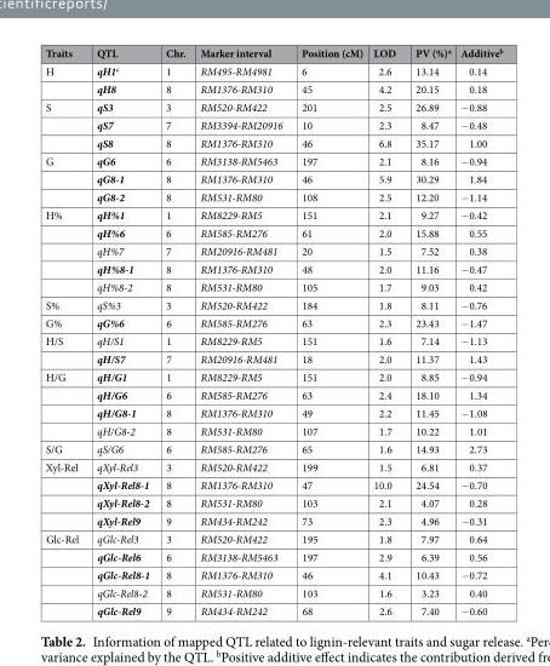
<table><thead><tr><td>Traits</td><td>QTL</td><td>Chr.</td><td>Marker interval</td><td>Position (cM)</td><td>LOD</td><td>PV (%)<sup>a</sup></td><td>Additive<sup>b</sup></td></tr></thead><tbody><tr><td rowspan="2">H</td><td>qH1<sup>c</sup></td><td>1</td><td>RM495-RM4981</td><td>6</td><td>2.6</td><td>13.14</td><td>0.14</td></tr><tr><td>qH8</td><td>8</td><td>RM1376-RM310</td><td>45</td><td>4.2</td><td>20.15</td><td>0.18</td></tr><tr><td rowspan="3">S</td><td>qS3</td><td>3</td><td>RM520-RM422</td><td>201</td><td>2.5</td><td>26.89</td><td>−0.88</td></tr><tr><td>qS7</td><td>7</td><td>RM3394-RM20916</td><td>10</td><td>2.3</td><td>8.47</td><td>−0.48</td></tr><tr><td>qS8</td><td>8</td><td>RM1376-RM310</td><td>46</td><td>6.8</td><td>35.17</td><td>1.00</td></tr><tr><td rowspan="3">G</td><td>qG6</td><td>6</td><td>RM3138-RM5463</td><td>197</td><td>2.1</td><td>8.16</td><td>−0.94</td></tr><tr><td>qG8-1</td><td>8</td><td>RM1376-RM310</td><td>46</td><td>5.9</td><td>30.29</td><td>1.84</td></tr><tr><td>qG8-2</td><td>8</td><td>RM531-RM80</td><td>108</td><td>2.5</td><td>12.20</td><td>−1.14</td></tr><tr><td rowspan="5">H%</td><td>qH%1</td><td>1</td><td>RM8229-RM5</td><td>151</td><td>2.1</td><td>9.27</td><td>−0.42</td></tr><tr><td>qH%6</td><td>6</td><td>RM585-RM276</td><td>61</td><td>2.0</td><td>15.88</td><td>0.55</td></tr><tr><td>qH%7</td><td>7</td><td>RM20916-RM481</td><td>20</td><td>1.5</td><td>7.52</td><td>0.38</td></tr><tr><td>qH%8-1</td><td>8</td><td>RM1376-RM310</td><td>48</td><td>2.0</td><td>11.16</td><td>−0.47</td></tr><tr><td>qH%8-2</td><td>8</td><td>RM531-RM80</td><td>105</td><td>1.7</td><td>9.03</td><td>0.42</td></tr><tr><td>S%</td><td>qS%3</td><td>3</td><td>RM520-RM422</td><td>184</td><td>1.8</td><td>8.11</td><td>−0.76</td></tr><tr><td>G%</td><td>qG%6</td><td>6</td><td>RM585-RM276</td><td>63</td><td>2.3</td><td>23.43</td><td>−1.47</td></tr><tr><td rowspan="2">H/S</td><td>qH/S1</td><td>1</td><td>RM8229-RM5</td><td>151</td><td>1.6</td><td>7.14</td><td>−1.13</td></tr><tr><td>qH/S7</td><td>7</td><td>RM20916-RM481</td><td>18</td><td>2.0</td><td>11.37</td><td>1.43</td></tr><tr><td rowspan="4">H/G</td><td>qH/G1</td><td>1</td><td>RM8229-RM5</td><td>151</td><td>2.0</td><td>8.85</td><td>−0.94</td></tr><tr><td>qH/G6</td><td>6</td><td>RM585-RM276</td><td>63</td><td>2.4</td><td>18.10</td><td>1.34</td></tr><tr><td>qH/G8-1</td><td>8</td><td>RM1376-RM310</td><td>49</td><td>2.2</td><td>11.45</td><td>−1.08</td></tr><tr><td>qH/G8-2</td><td>8</td><td>RM531-RM80</td><td>107</td><td>1.7</td><td>10.22</td><td>1.01</td></tr><tr><td>S/G</td><td>qS/G6</td><td>6</td><td>RM585-RM276</td><td>65</td><td>1.6</td><td>14.93</td><td>2.73</td></tr><tr><td rowspan="4">Xyl-Rel</td><td>qXyl-Rel3</td><td>3</td><td>RM520-RM422</td><td>199</td><td>1.5</td><td>6.81</td><td>0.37</td></tr><tr><td>qXyl-Rel8-1</td><td>8</td><td>RM1376-RM310</td><td>47</td><td>10.0</td><td>24.54</td><td>−0.70</td></tr><tr><td>qXyl-Rel8-2</td><td>8</td><td>RM531-RM80</td><td>103</td><td>2.1</td><td>4.07</td><td>0.28</td></tr><tr><td>qXyl-Rel9</td><td>9</td><td>RM434-RM242</td><td>73</td><td>2.3</td><td>4.96</td><td>−0.31</td></tr><tr><td rowspan="5">Glc-Rel</td><td>qGlc-Rel3</td><td>3</td><td>RM520-RM422</td><td>195</td><td>1.8</td><td>7.97</td><td>0.64</td></tr><tr><td>qGlc-Rel6</td><td>6</td><td>RM3138-RM5463</td><td>197</td><td>2.9</td><td>6.39</td><td>0.56</td></tr><tr><td>qGlc-Rel8-1</td><td>8</td><td>RM1376-RM310</td><td>46</td><td>4.1</td><td>10.43</td><td>−0.72</td></tr><tr><td>qGlc-Rel8-2</td><td>8</td><td>RM531-RM80</td><td>103</td><td>1.6</td><td>3.23</td><td>0.40</td></tr><tr><td>qGlc-Rel9</td><td>9</td><td>RM434-RM242</td><td>68</td><td>2.6</td><td>7.40</td><td>−0.60</td></tr></tbody></table>